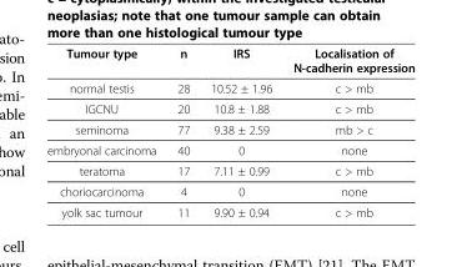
<table><thead><tr><td>Tumour type</td><td>n</td><td>IRS</td><td>Localisation of N-cadherin expression</td></tr></thead><tbody><tr><td>normal testis</td><td>28</td><td>10.52 ± 1.96</td><td>c &gt; mb</td></tr><tr><td>IGCNU</td><td>20</td><td>10.8 ± 1.88</td><td>c &gt; mb</td></tr><tr><td>seminoma</td><td>77</td><td>9.38 ± 2.59</td><td>mb &gt; c</td></tr><tr><td>embryonal carcinoma</td><td>40</td><td>0</td><td>none</td></tr><tr><td>teratoma</td><td>17</td><td>7.11 ± 0.99</td><td>c &gt; mb</td></tr><tr><td>choriocarcinoma</td><td>4</td><td>0</td><td>none</td></tr><tr><td>yolk sac tumour</td><td>11</td><td>9.90 ± 0.94</td><td>c &gt; mb</td></tr></tbody></table>